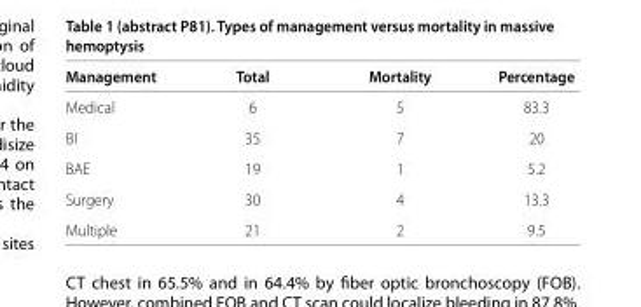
<table><thead><tr><td>Management</td><td>Total</td><td>Mortality</td><td>Percentage</td></tr></thead><tbody><tr><td>Medical</td><td>6</td><td>5</td><td>83.3</td></tr><tr><td>BI</td><td>35</td><td>7</td><td>20</td></tr><tr><td>BAE</td><td>19</td><td>1</td><td>5.2</td></tr><tr><td>Surgery</td><td>30</td><td>4</td><td>13.3</td></tr><tr><td>Multiple</td><td>21</td><td>2</td><td>9.5</td></tr></tbody></table>